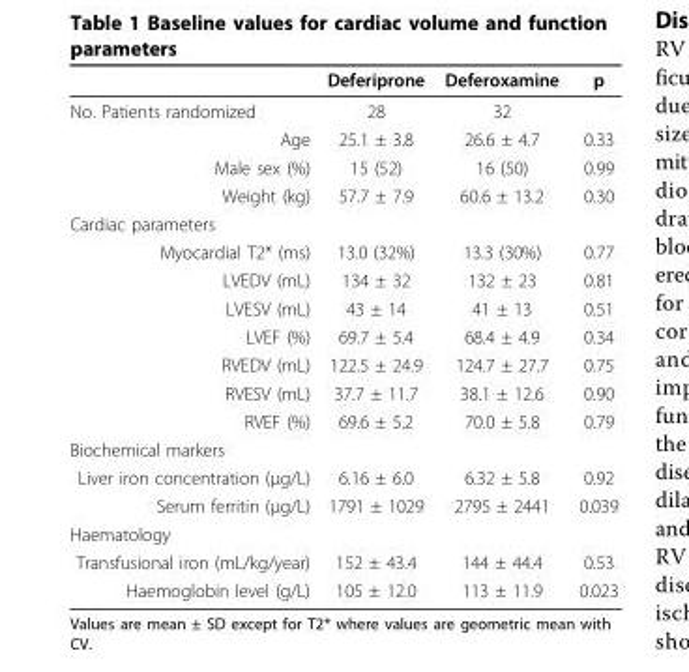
<table><thead><tr><td></td><td>Deferiprone</td><td>Deferoxamine</td><td>p</td></tr></thead><tbody><tr><td>No. Patients randomized</td><td>28</td><td>32</td><td></td></tr><tr><td>Age</td><td>25.1 ± 3.8</td><td>26.6 ± 4.7</td><td>0.33</td></tr><tr><td>Male sex (%)</td><td>15 (52)</td><td>16 (50)</td><td>0.99</td></tr><tr><td>Weight (kg)</td><td>57.7 ± 7.9</td><td>60.6 ± 13.2</td><td>0.30</td></tr><tr><td colspan="4">Cardiac parameters</td></tr><tr><td>Myocardial T2* (ms)</td><td>13.0 (32%)</td><td>13.3 (30%)</td><td>0.77</td></tr><tr><td>LVEDV (mL)</td><td>134 ± 32</td><td>132 ± 23</td><td>0.81</td></tr><tr><td>LVESV (mL)</td><td>43 ± 14</td><td>41 ± 13</td><td>0.51</td></tr><tr><td>LVEF (%)</td><td>69.7 ± 5.4</td><td>68.4 ± 4.9</td><td>0.34</td></tr><tr><td>RVEDV (mL)</td><td>122.5 ± 24.9</td><td>124.7 ± 27.7</td><td>0.75</td></tr><tr><td>RVESV (mL)</td><td>37.7 ± 11.7</td><td>38.1 ± 12.6</td><td>0.90</td></tr><tr><td>RVEF (%)</td><td>69.6 ± 5.2</td><td>70.0 ± 5.8</td><td>0.79</td></tr><tr><td colspan="4">Biochemical markers</td></tr><tr><td>Liver iron concentration (μg/L)</td><td>6.16 ± 6.0</td><td>6.32 ± 5.8</td><td>0.92</td></tr><tr><td>Serum ferritin (μg/L)</td><td>1791 ± 1029</td><td>2795 ± 2441</td><td>0.039</td></tr><tr><td colspan="4">Haematology</td></tr><tr><td>Transfusional iron (mL/kg/year)</td><td>152 ± 43.4</td><td>144 ± 44.4</td><td>0.53</td></tr><tr><td>Haemoglobin level (g/L)</td><td>105 ± 12.0</td><td>113 ± 11.9</td><td>0.023</td></tr></tbody></table>